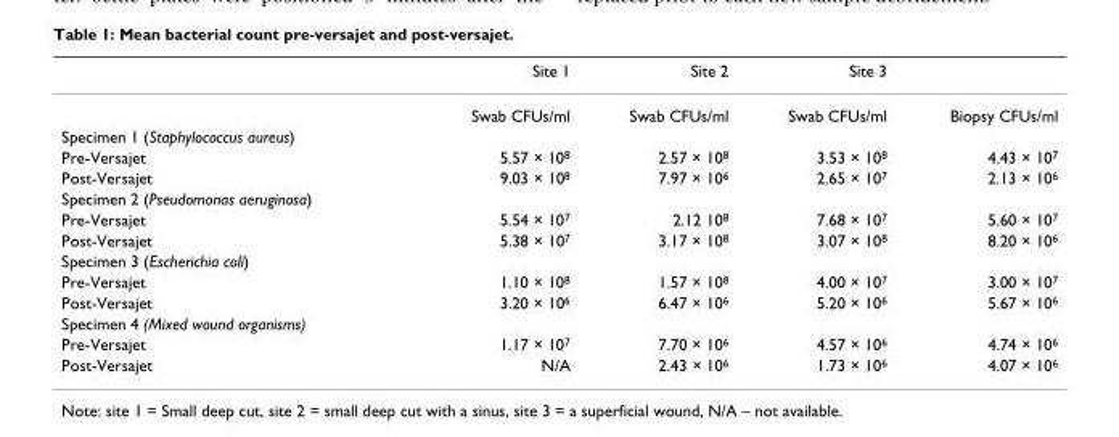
<table><thead><tr><td></td><td>Site 1</td><td>Site 2</td><td>Site 3</td><td></td></tr></thead><tbody><tr><td></td><td>Swab CFUs/ml</td><td>Swab CFUs/ml</td><td>Swab CFUs/ml</td><td>Biopsy CFUs/ml</td></tr><tr><td colspan="5">Specimen 1 (Staphylococcus aureus)</td></tr><tr><td>Pre-Versajet</td><td>5.57 × 10<sup>8</sup></td><td>2.57 × 10<sup>8</sup></td><td>3.53 × 10<sup>8</sup></td><td>4.43 × 10<sup>7</sup></td></tr><tr><td>Post-Versajet</td><td>9.03 × 10<sup>8</sup></td><td>7.97 × 10<sup>6</sup></td><td>2.65 × 10<sup>7</sup></td><td>2.13 × 10<sup>6</sup></td></tr><tr><td colspan="5">Specimen 2 (Pseudomonas aeruginosa)</td></tr><tr><td>Pre-Versajet</td><td>5.54 × 10<sup>7</sup></td><td>2.12 10<sup>8</sup></td><td>7.68 × 10<sup>7</sup></td><td>5.60 × 10<sup>7</sup></td></tr><tr><td>Post-Versajet</td><td>5.38 × 10<sup>7</sup></td><td>3.17 × 10<sup>8</sup></td><td>3.07 × 10<sup>8</sup></td><td>8.20 × 10<sup>6</sup></td></tr><tr><td colspan="5">Specimen 3 (Escherichia coli)</td></tr><tr><td>Pre-Versajet</td><td>1.10 × 10<sup>8</sup></td><td>1.57 × 10<sup>8</sup></td><td>4.00 × 10<sup>7</sup></td><td>3.00 × 10<sup>7</sup></td></tr><tr><td>Post-Versajet</td><td>3.20 × 10<sup>6</sup></td><td>6.47 × 10<sup>6</sup></td><td>5.20 × 10<sup>6</sup></td><td>5.67 × 10<sup>6</sup></td></tr><tr><td colspan="5">Specimen 4 (Mixed wound organisms)</td></tr><tr><td>Pre-Versajet</td><td>1.17 × 10<sup>7</sup></td><td>7.70 × 10<sup>6</sup></td><td>4.57 × 10<sup>6</sup></td><td>4.74 × 10<sup>6</sup></td></tr><tr><td>Post-Versajet</td><td>N/A</td><td>2.43 × 10<sup>6</sup></td><td>1.73 × 10<sup>6</sup></td><td>4.07 × 10<sup>6</sup></td></tr></tbody></table>